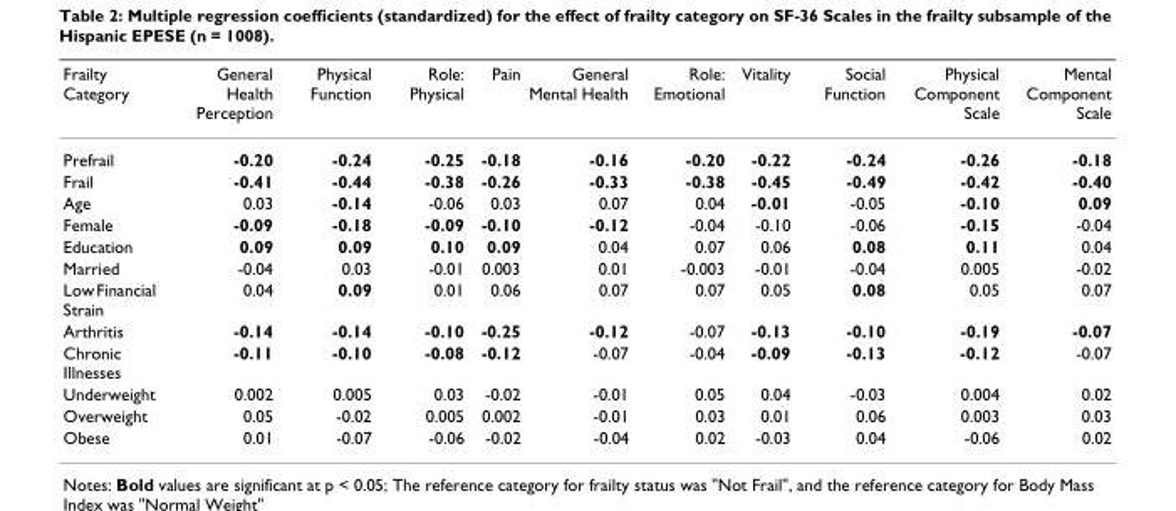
<table><thead><tr><td>Frailty Category</td><td>General Health Perception</td><td>Physical Function</td><td>Role: Physical</td><td>Pain</td><td>General Mental Health</td><td>Role: Emotional</td><td>Vitality</td><td>Social Function</td><td>Physical Component Scale</td><td>Mental Component Scale</td></tr></thead><tbody><tr><td>Prefrail</td><td>-0.20</td><td>-0.24</td><td>-0.25</td><td>-0.18</td><td>-0.16</td><td>-0.20</td><td>-0.22</td><td>-0.24</td><td>-0.26</td><td>-0.18</td></tr><tr><td>Frail</td><td>-0.41</td><td>-0.44</td><td>-0.38</td><td>-0.26</td><td>-0.33</td><td>-0.38</td><td>-0.45</td><td>-0.49</td><td>-0.42</td><td>-0.40</td></tr><tr><td>Age</td><td>0.03</td><td>-0.14</td><td>-0.06</td><td>0.03</td><td>0.07</td><td>0.04</td><td>-0.01</td><td>-0.05</td><td>-0.10</td><td>0.09</td></tr><tr><td>Female</td><td>-0.09</td><td>-0.18</td><td>-0.09</td><td>-0.10</td><td>-0.12</td><td>-0.04</td><td>-0.10</td><td>-0.06</td><td>-0.15</td><td>-0.04</td></tr><tr><td>Education</td><td>0.09</td><td>0.09</td><td>0.10</td><td>0.09</td><td>0.04</td><td>0.07</td><td>0.06</td><td>0.08</td><td>0.11</td><td>0.04</td></tr><tr><td>Married</td><td>-0.04</td><td>0.03</td><td>-0.01</td><td>0.003</td><td>0.01</td><td>-0.003</td><td>-0.01</td><td>-0.04</td><td>0.005</td><td>-0.02</td></tr><tr><td>Low Financial Strain</td><td>0.04</td><td>0.09</td><td>0.01</td><td>0.06</td><td>0.07</td><td>0.07</td><td>0.05</td><td>0.08</td><td>0.05</td><td>0.07</td></tr><tr><td>Arthritis</td><td>-0.14</td><td>-0.14</td><td>-0.10</td><td>-0.25</td><td>-0.12</td><td>-0.07</td><td>-0.13</td><td>-0.10</td><td>-0.19</td><td>-0.07</td></tr><tr><td>Chronic Illnesses</td><td>-0.11</td><td>-0.10</td><td>-0.08</td><td>-0.12</td><td>-0.07</td><td>-0.04</td><td>-0.09</td><td>-0.13</td><td>-0.12</td><td>-0.07</td></tr><tr><td>Underweight</td><td>0.002</td><td>0.005</td><td>0.03</td><td>-0.02</td><td>-0.01</td><td>0.05</td><td>0.04</td><td>-0.03</td><td>0.004</td><td>0.02</td></tr><tr><td>Overweight</td><td>0.05</td><td>-0.02</td><td>0.005</td><td>0.002</td><td>-0.01</td><td>0.03</td><td>0.01</td><td>0.06</td><td>0.003</td><td>0.03</td></tr><tr><td>Obese</td><td>0.01</td><td>-0.07</td><td>-0.06</td><td>-0.02</td><td>-0.04</td><td>0.02</td><td>-0.03</td><td>0.04</td><td>-0.06</td><td>0.02</td></tr></tbody></table>